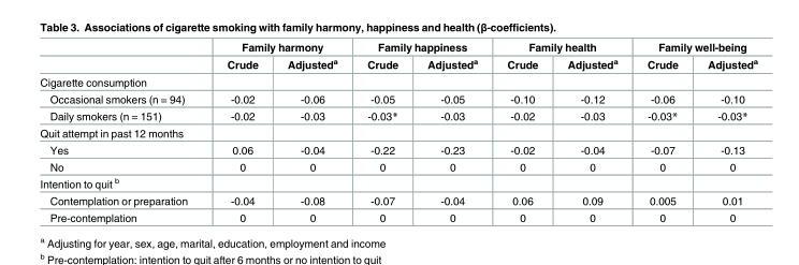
<table><thead><tr><td rowspan="2"></td><td colspan="2">Family harmony</td><td colspan="2">Family happiness</td><td colspan="2">Family health</td><td colspan="2">Family well-being</td></tr><tr><td>Crude</td><td>Adjusted<sup>a</sup></td><td>Crude</td><td>Adjusted<sup>a</sup></td><td>Crude</td><td>Adjusted<sup>a</sup></td><td>Crude</td><td>Adjusted<sup>a</sup></td></tr></thead><tbody><tr><td colspan="9">Cigarette consumption</td></tr><tr><td>Occasional smokers (n = 94)</td><td>-0.02</td><td>-0.06</td><td>-0.05</td><td>-0.05</td><td>-0.10</td><td>-0.12</td><td>-0.06</td><td>-0.10</td></tr><tr><td>Daily smokers (n = 151)</td><td>-0.02</td><td>-0.03</td><td>-0.03*</td><td>-0.03</td><td>-0.02</td><td>-0.03</td><td>-0.03*</td><td>-0.03*</td></tr><tr><td colspan="9">Quit attempt in past 12 months</td></tr><tr><td>Yes</td><td>0.06</td><td>-0.04</td><td>-0.22</td><td>-0.23</td><td>-0.02</td><td>-0.04</td><td>-0.07</td><td>-0.13</td></tr><tr><td>No</td><td>0</td><td>0</td><td>0</td><td>0</td><td>0</td><td>0</td><td>0</td><td>0</td></tr><tr><td colspan="9">Intention to quit <sup>b</sup></td></tr><tr><td>Contemplation or preparation</td><td>-0.04</td><td>-0.08</td><td>-0.07</td><td>-0.04</td><td>0.06</td><td>0.09</td><td>0.005</td><td>0.01</td></tr><tr><td>Pre-contemplation</td><td>0</td><td>0</td><td>0</td><td>0</td><td>0</td><td>0</td><td>0</td><td>0</td></tr></tbody></table>